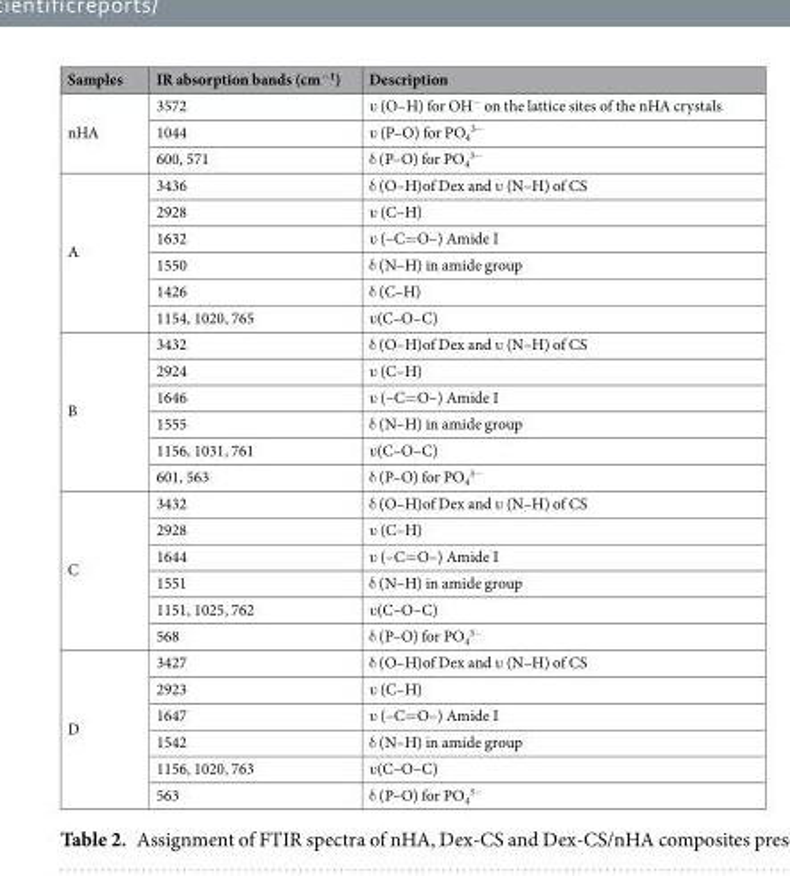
<table><thead><tr><td>Samples</td><td>IR absorption bands (cm<sup>−1</sup>)</td><td>Description</td></tr></thead><tbody><tr><td rowspan="3">nHA</td><td>3572</td><td>ʋ (O–H) for OH<sup>−</sup> on the lattice sites of the nHA crystals</td></tr><tr><td>1044</td><td>ʋ (P–O) for PO<sub>4</sub> <sup>3−</sup></td></tr><tr><td>600, 571</td><td>δ (P–O) for PO<sub>4</sub> <sup>3−</sup></td></tr><tr><td rowspan="6">A</td><td>3436</td><td>δ (O–H)of Dex and ʋ (N–H) of CS</td></tr><tr><td>2928</td><td>ʋ (C–H)</td></tr><tr><td>1632</td><td>ʋ (–C=O–) Amide I</td></tr><tr><td>1550</td><td>δ (N–H) in amide group</td></tr><tr><td>1426</td><td>δ (C–H)</td></tr><tr><td>1154, 1020, 765</td><td>ʋ(C–O–C)</td></tr><tr><td rowspan="6">B</td><td>3432</td><td>δ (O–H)of Dex and ʋ (N–H) of CS</td></tr><tr><td>2924</td><td>ʋ (C–H)</td></tr><tr><td>1646</td><td>ʋ (–C=O–) Amide I</td></tr><tr><td>1555</td><td>δ (N–H) in amide group</td></tr><tr><td>1156, 1031, 761</td><td>ʋ(C–O–C)</td></tr><tr><td>601, 563</td><td>δ (P–O) for PO<sub>4</sub> <sup>3−</sup></td></tr><tr><td rowspan="6">C</td><td>3432</td><td>δ (O–H)of Dex and ʋ (N–H) of CS</td></tr><tr><td>2928</td><td>ʋ (C–H)</td></tr><tr><td>1644</td><td>ʋ (–C=O–) Amide I</td></tr><tr><td>1551</td><td>δ (N–H) in amide group</td></tr><tr><td>1151, 1025, 762</td><td>ʋ(C–O–C)</td></tr><tr><td>568</td><td>δ (P–O) for PO<sub>4</sub> <sup>3−</sup></td></tr><tr><td rowspan="6">D</td><td>3427</td><td>δ (O–H)of Dex and ʋ (N–H) of CS</td></tr><tr><td>2923</td><td>ʋ (C–H)</td></tr><tr><td>1647</td><td>ʋ (–C=O–) Amide I</td></tr><tr><td>1542</td><td>δ (N–H) in amide group</td></tr><tr><td>1156, 1020, 763</td><td>ʋ(C–O–C)</td></tr><tr><td>563</td><td>δ (P–O) for PO<sub>4</sub> <sup>3−</sup></td></tr></tbody></table>